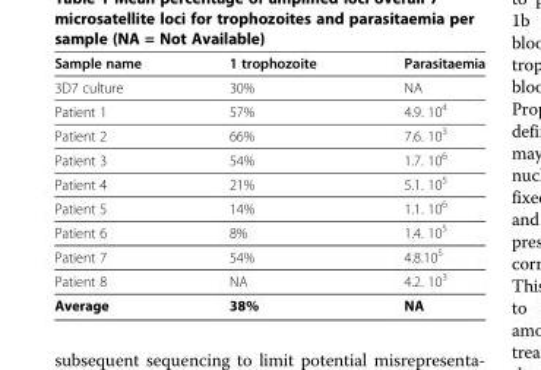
<table><thead><tr><td>Sample name</td><td>1 trophozoite</td><td>Parasitaemia</td></tr></thead><tbody><tr><td>3D7 culture</td><td>30%</td><td>NA</td></tr><tr><td>Patient 1</td><td>57%</td><td>4.9. 10<sup>4</sup></td></tr><tr><td>Patient 2</td><td>66%</td><td>7.6. 10<sup>3</sup></td></tr><tr><td>Patient 3</td><td>54%</td><td>1.7. 10<sup>6</sup></td></tr><tr><td>Patient 4</td><td>21%</td><td>5.1. 10<sup>5</sup></td></tr><tr><td>Patient 5</td><td>14%</td><td>1.1. 10<sup>6</sup></td></tr><tr><td>Patient 6</td><td>8%</td><td>1.4. 10<sup>5</sup></td></tr><tr><td>Patient 7</td><td>54%</td><td>4.8.10<sup>5</sup></td></tr><tr><td>Patient 8</td><td>NA</td><td>4.2. 10<sup>3</sup></td></tr><tr><td>Average</td><td>38%</td><td>NA</td></tr></tbody></table>